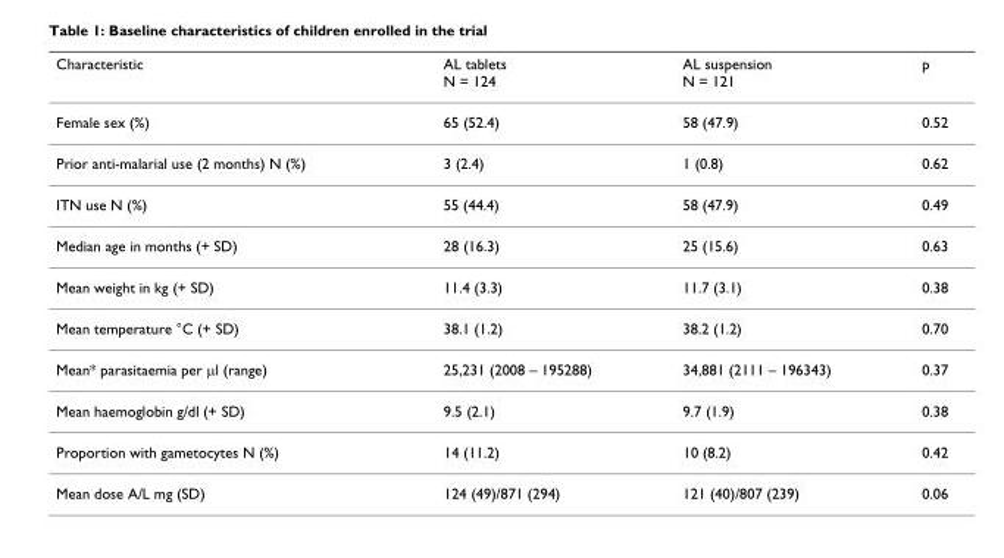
<table><thead><tr><td>Characteristic</td><td>AL tablets N = 124</td><td>AL suspension N = 121</td><td>p</td></tr></thead><tbody><tr><td>Female sex (%)</td><td>65 (52.4)</td><td>58 (47.9)</td><td>0.52</td></tr><tr><td>Prior anti-malarial use (2 months) N (%)</td><td>3 (2.4)</td><td>1 (0.8)</td><td>0.62</td></tr><tr><td>ITN use N (%)</td><td>55 (44.4)</td><td>58 (47.9)</td><td>0.49</td></tr><tr><td>Median age in months (+ SD)</td><td>28 (16.3)</td><td>25 (15.6)</td><td>0.63</td></tr><tr><td>Mean weight in kg (+ SD)</td><td>11.4 (3.3)</td><td>11.7 (3.1)</td><td>0.38</td></tr><tr><td>Mean temperature °C (+ SD)</td><td>38.1 (1.2)</td><td>38.2 (1.2)</td><td>0.70</td></tr><tr><td>Mean* parasitaemia per μl (range)</td><td>25,231 (2008 – 195288)</td><td>34,881 (2111 – 196343)</td><td>0.37</td></tr><tr><td>Mean haemoglobin g/dl (+ SD)</td><td>9.5 (2.1)</td><td>9.7 (1.9)</td><td>0.38</td></tr><tr><td>Proportion with gametocytes N (%)</td><td>14 (11.2)</td><td>10 (8.2)</td><td>0.42</td></tr><tr><td>Mean dose A/L mg (SD)</td><td>124 (49)/871 (294)</td><td>121 (40)/807 (239)</td><td>0.06</td></tr></tbody></table>